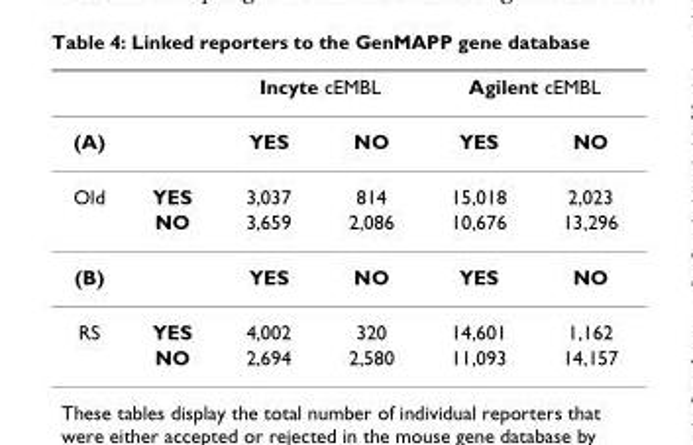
<table><thead><tr><td rowspan="2">(A)</td><td rowspan="2"></td><td colspan="2">Incyte cEMBL</td><td colspan="2">Agilent cEMBL</td></tr><tr><td>YES</td><td>NO</td><td>YES</td><td>NO</td></tr></thead><tbody><tr><td rowspan="2">Old</td><td>YES</td><td>3,037</td><td>814</td><td>15,018</td><td>2,023</td></tr><tr><td>NO</td><td>3,659</td><td>2,086</td><td>10,676</td><td>13,296</td></tr><tr><td>(B)</td><td></td><td>YES</td><td>NO</td><td>YES</td><td>NO</td></tr><tr><td rowspan="2">RS</td><td>YES</td><td>4,002</td><td>320</td><td>14,601</td><td>1,162</td></tr><tr><td>NO</td><td>2,694</td><td>2,580</td><td>11,093</td><td>14,157</td></tr></tbody></table>